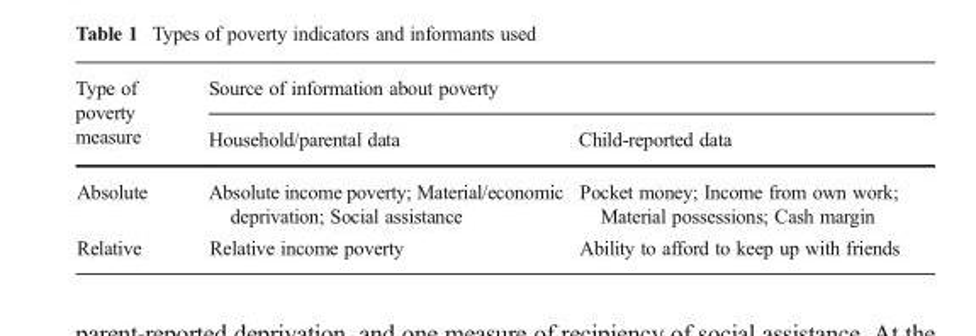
<table><thead><tr><td rowspan="2">Type of poverty measure</td><td colspan="2">Source of information about poverty</td></tr><tr><td>Household/parental data</td><td>Child-reported data</td></tr></thead><tbody><tr><td>Absolute</td><td>Absolute income poverty; Material/economic deprivation; Social assistance</td><td>Pocket money; Income from own work; Material possessions; Cash margin</td></tr><tr><td>Relative</td><td>Relative income poverty</td><td>Ability to afford to keep up with friends</td></tr></tbody></table>